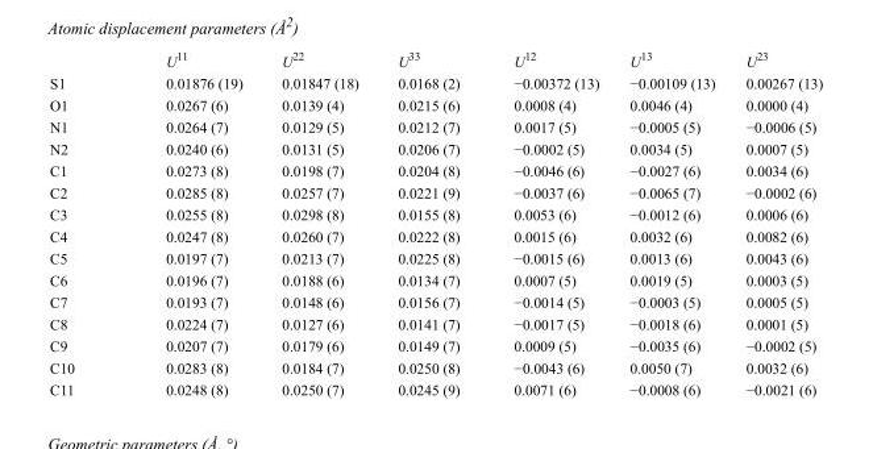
<table><thead><tr><td></td><td>U<sup>11</sup></td><td>U<sup>22</sup></td><td>U<sup>33</sup></td><td>U<sup>12</sup></td><td>U<sup>13</sup></td><td>U<sup>23</sup></td></tr></thead><tbody><tr><td>S1</td><td>0.01876 (19)</td><td>0.01847 (18)</td><td>0.0168 (2)</td><td>−0.00372 (13)</td><td>−0.00109 (13)</td><td>0.00267 (13)</td></tr><tr><td>O1</td><td>0.0267 (6)</td><td>0.0139 (4)</td><td>0.0215 (6)</td><td>0.0008 (4)</td><td>0.0046 (4)</td><td>0.0000 (4)</td></tr><tr><td>N1</td><td>0.0264 (7)</td><td>0.0129 (5)</td><td>0.0212 (7)</td><td>0.0017 (5)</td><td>−0.0005 (5)</td><td>−0.0006 (5)</td></tr><tr><td>N2</td><td>0.0240 (6)</td><td>0.0131 (5)</td><td>0.0206 (7)</td><td>−0.0002 (5)</td><td>0.0034 (5)</td><td>0.0007 (5)</td></tr><tr><td>C1</td><td>0.0273 (8)</td><td>0.0198 (7)</td><td>0.0204 (8)</td><td>−0.0046 (6)</td><td>−0.0027 (6)</td><td>0.0034 (6)</td></tr><tr><td>C2</td><td>0.0285 (8)</td><td>0.0257 (7)</td><td>0.0221 (9)</td><td>−0.0037 (6)</td><td>−0.0065 (7)</td><td>−0.0002 (6)</td></tr><tr><td>C3</td><td>0.0255 (8)</td><td>0.0298 (8)</td><td>0.0155 (8)</td><td>0.0053 (6)</td><td>−0.0012 (6)</td><td>0.0006 (6)</td></tr><tr><td>C4</td><td>0.0247 (8)</td><td>0.0260 (7)</td><td>0.0222 (8)</td><td>0.0015 (6)</td><td>0.0032 (6)</td><td>0.0082 (6)</td></tr><tr><td>C5</td><td>0.0197 (7)</td><td>0.0213 (7)</td><td>0.0225 (8)</td><td>−0.0015 (6)</td><td>0.0013 (6)</td><td>0.0043 (6)</td></tr><tr><td>C6</td><td>0.0196 (7)</td><td>0.0188 (6)</td><td>0.0134 (7)</td><td>0.0007 (5)</td><td>0.0019 (5)</td><td>0.0003 (5)</td></tr><tr><td>C7</td><td>0.0193 (7)</td><td>0.0148 (6)</td><td>0.0156 (7)</td><td>−0.0014 (5)</td><td>−0.0003 (5)</td><td>0.0005 (5)</td></tr><tr><td>C8</td><td>0.0224 (7)</td><td>0.0127 (6)</td><td>0.0141 (7)</td><td>−0.0017 (5)</td><td>−0.0018 (6)</td><td>0.0001 (5)</td></tr><tr><td>C9</td><td>0.0207 (7)</td><td>0.0179 (6)</td><td>0.0149 (7)</td><td>0.0009 (5)</td><td>−0.0035 (6)</td><td>−0.0002 (5)</td></tr><tr><td>C10</td><td>0.0283 (8)</td><td>0.0184 (7)</td><td>0.0250 (8)</td><td>−0.0043 (6)</td><td>0.0050 (7)</td><td>0.0032 (6)</td></tr><tr><td>C11</td><td>0.0248 (8)</td><td>0.0250 (7)</td><td>0.0245 (9)</td><td>0.0071 (6)</td><td>−0.0008 (6)</td><td>−0.0021 (6)</td></tr></tbody></table>